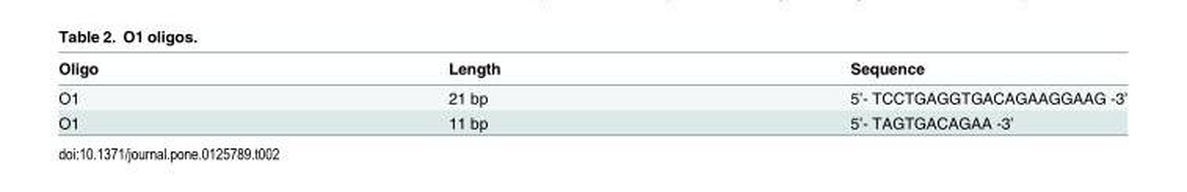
<table><thead><tr><td>Oligo</td><td>Length</td><td>Sequence</td></tr></thead><tbody><tr><td>O1</td><td>21 bp</td><td>5’- TCCTGAGGTGACAGAAGGAAG -3’</td></tr><tr><td>O1</td><td>11 bp</td><td>5’- TAGTGACAGAA -3’</td></tr></tbody></table>